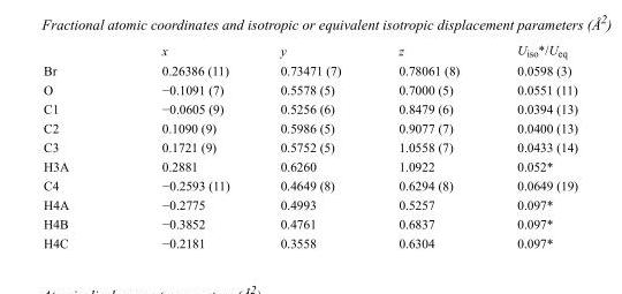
<table><thead><tr><td></td><td>x</td><td>y</td><td>z</td><td>U<sub>iso</sub>*/U<sub>eq</sub></td></tr></thead><tbody><tr><td>Br</td><td>0.26386 (11)</td><td>0.73471 (7)</td><td>0.78061 (8)</td><td>0.0598 (3)</td></tr><tr><td>O</td><td>−0.1091 (7)</td><td>0.5578 (5)</td><td>0.7000 (5)</td><td>0.0551 (11)</td></tr><tr><td>C1</td><td>−0.0605 (9)</td><td>0.5256 (6)</td><td>0.8479 (6)</td><td>0.0394 (13)</td></tr><tr><td>C2</td><td>0.1090 (9)</td><td>0.5986 (5)</td><td>0.9077 (7)</td><td>0.0400 (13)</td></tr><tr><td>C3</td><td>0.1721 (9)</td><td>0.5752 (5)</td><td>1.0558 (7)</td><td>0.0433 (14)</td></tr><tr><td>H3A</td><td>0.2881</td><td>0.6260</td><td>1.0922</td><td>0.052*</td></tr><tr><td>C4</td><td>−0.2593 (11)</td><td>0.4649 (8)</td><td>0.6294 (8)</td><td>0.0649 (19)</td></tr><tr><td>H4A</td><td>−0.2775</td><td>0.4993</td><td>0.5257</td><td>0.097*</td></tr><tr><td>H4B</td><td>−0.3852</td><td>0.4761</td><td>0.6837</td><td>0.097*</td></tr><tr><td>H4C</td><td>−0.2181</td><td>0.3558</td><td>0.6304</td><td>0.097*</td></tr></tbody></table>